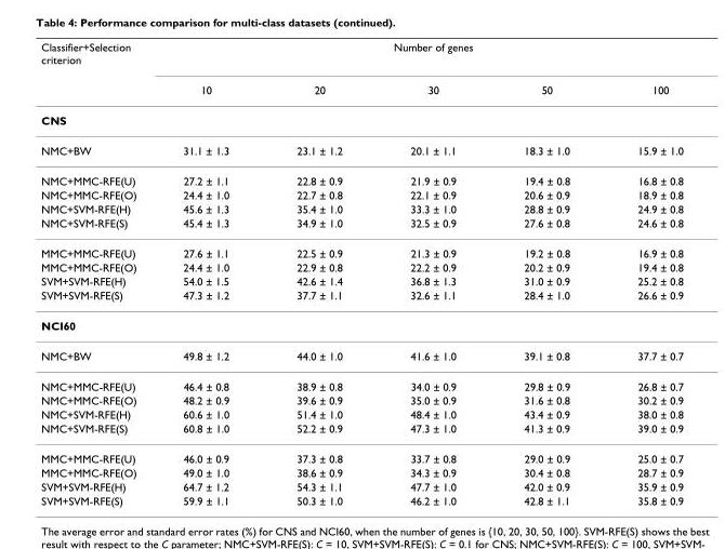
<table><thead><tr><td rowspan="2">Classifier+Selection criterion</td><td colspan="5">Number of genes</td></tr><tr><td>10</td><td>20</td><td>30</td><td>50</td><td>100</td></tr></thead><tbody><tr><td colspan="6">CNS</td></tr><tr><td>NMC+BW</td><td>31.1 ± 1.3</td><td>23.1 ± 1.2</td><td>20.1 ± 1.1</td><td>18.3 ± 1.0</td><td>15.9 ± 1.0</td></tr><tr><td>NMC+MMC-RFE(U)</td><td>27.2 ± 1.1</td><td>22.8 ± 0.9</td><td>21.9 ± 0.9</td><td>19.4 ± 0.8</td><td>16.8 ± 0.8</td></tr><tr><td>NMC+MMC-RFE(O)</td><td>24.4 ± 1.0</td><td>22.7 ± 0.8</td><td>22.1 ± 0.9</td><td>20.6 ± 0.9</td><td>18.9 ± 0.8</td></tr><tr><td>NMC+SVM-RFE(H)</td><td>45.6 ± 1.3</td><td>35.4 ± 1.0</td><td>33.3 ± 1.0</td><td>28.8 ± 0.9</td><td>24.9 ± 0.8</td></tr><tr><td>NMC+SVM-RFE(S)</td><td>45.4 ± 1.3</td><td>34.9 ± 1.0</td><td>32.5 ± 0.9</td><td>27.6 ± 0.8</td><td>24.6 ± 0.8</td></tr><tr><td>MMC+MMC-RFE(U)</td><td>27.6 ± 1.1</td><td>22.5 ± 0.9</td><td>21.3 ± 0.9</td><td>19.2 ± 0.8</td><td>16.9 ± 0.8</td></tr><tr><td>MMC+MMC-RFE(O)</td><td>24.4 ± 1.0</td><td>22.9 ± 0.8</td><td>22.2 ± 0.9</td><td>20.2 ± 0.9</td><td>19.4 ± 0.8</td></tr><tr><td>SVM+SVM-RFE(H)</td><td>54.0 ± 1.5</td><td>42.6 ± 1.4</td><td>36.8 ± 1.3</td><td>31.0 ± 0.9</td><td>25.2 ± 0.8</td></tr><tr><td>SVM+SVM-RFE(S)</td><td>47.3 ± 1.2</td><td>37.7 ± 1.1</td><td>32.6 ± 1.1</td><td>28.4 ± 1.0</td><td>26.6 ± 0.9</td></tr><tr><td colspan="6">NCI60</td></tr><tr><td>NMC+BW</td><td>49.8 ± 1.2</td><td>44.0 ± 1.0</td><td>41.6 ± 1.0</td><td>39.1 ± 0.8</td><td>37.7 ± 0.7</td></tr><tr><td>NMC+MMC-RFE(U)</td><td>46.4 ± 0.8</td><td>38.9 ± 0.8</td><td>34.0 ± 0.9</td><td>29.8 ± 0.9</td><td>26.8 ± 0.7</td></tr><tr><td>NMC+MMC-RFE(O)</td><td>48.2 ± 0.9</td><td>39.6 ± 0.9</td><td>35.0 ± 0.9</td><td>31.6 ± 0.8</td><td>30.2 ± 0.9</td></tr><tr><td>NMC+SVM-RFE(H)</td><td>60.6 ± 1.0</td><td>51.4 ± 1.0</td><td>48.4 ± 1.0</td><td>43.4 ± 0.9</td><td>38.0 ± 0.8</td></tr><tr><td>NMC+SVM-RFE(S)</td><td>60.8 ± 1.0</td><td>52.2 ± 0.9</td><td>47.3 ± 1.0</td><td>41.3 ± 0.9</td><td>39.0 ± 0.9</td></tr><tr><td>MMC+MMC-RFE(U)</td><td>46.0 ± 0.9</td><td>37.3 ± 0.8</td><td>33.7 ± 0.8</td><td>29.0 ± 0.9</td><td>25.0 ± 0.7</td></tr><tr><td>MMC+MMC-RFE(O)</td><td>49.0 ± 1.0</td><td>38.6 ± 0.9</td><td>34.3 ± 0.9</td><td>30.4 ± 0.8</td><td>28.7 ± 0.9</td></tr><tr><td>SVM+SVM-RFE(H)</td><td>64.7 ± 1.2</td><td>54.3 ± 1.1</td><td>47.7 ± 1.0</td><td>42.0 ± 0.9</td><td>35.9 ± 0.9</td></tr><tr><td>SVM+SVM-RFE(S)</td><td>59.9 ± 1.1</td><td>50.3 ± 1.0</td><td>46.2 ± 1.0</td><td>42.8 ± 1.1</td><td>35.8 ± 0.9</td></tr></tbody></table>